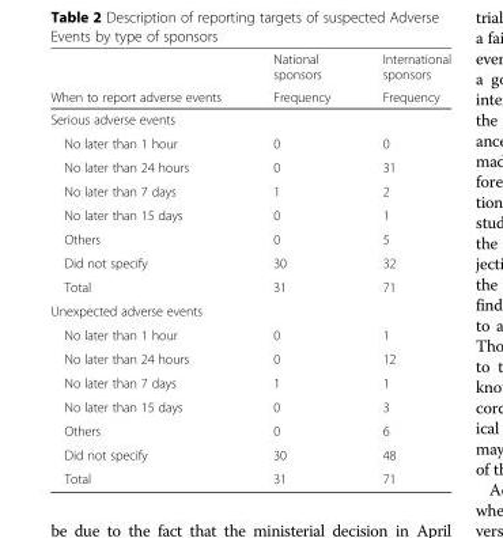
<table><thead><tr><td rowspan="2">When to report adverse events</td><td rowspan="2">National sponsors Frequency</td><td rowspan="2">International sponsors Frequency</td></tr><tr></tr></thead><tbody><tr><td colspan="3">Serious adverse events</td></tr><tr><td>No later than 1 hour</td><td>0</td><td>0</td></tr><tr><td>No later than 24 hours</td><td>0</td><td>31</td></tr><tr><td>No later than 7 days</td><td>1</td><td>2</td></tr><tr><td>No later than 15 days</td><td>0</td><td>1</td></tr><tr><td>Others</td><td>0</td><td>5</td></tr><tr><td>Did not specify</td><td>30</td><td>32</td></tr><tr><td>Total</td><td>31</td><td>71</td></tr><tr><td colspan="3">Unexpected adverse events</td></tr><tr><td>No later than 1 hour</td><td>0</td><td>1</td></tr><tr><td>No later than 24 hours</td><td>0</td><td>12</td></tr><tr><td>No later than 7 days</td><td>1</td><td>1</td></tr><tr><td>No later than 15 days</td><td>0</td><td>3</td></tr><tr><td>Others</td><td>0</td><td>6</td></tr><tr><td>Did not specify</td><td>30</td><td>48</td></tr><tr><td>Total</td><td>31</td><td>71</td></tr></tbody></table>